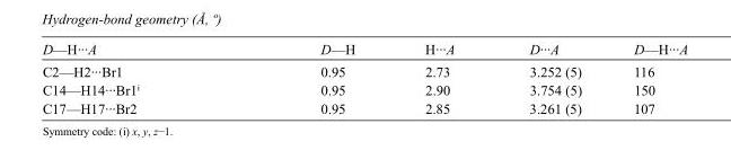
<table><tbody><tr><td>D—H···A</td><td>D—H</td><td>H···A</td><td>D···A</td><td>D—H···A</td></tr><tr><td>C2—H2···Br1</td><td>0.95</td><td>2.73</td><td>3.252 (5)</td><td>116</td></tr><tr><td>C14—H14···Br1<sup>i</sup></td><td>0.95</td><td>2.90</td><td>3.754 (5)</td><td>150</td></tr><tr><td>C17—H17···Br2</td><td>0.95</td><td>2.85</td><td>3.261 (5)</td><td>107</td></tr></tbody></table>